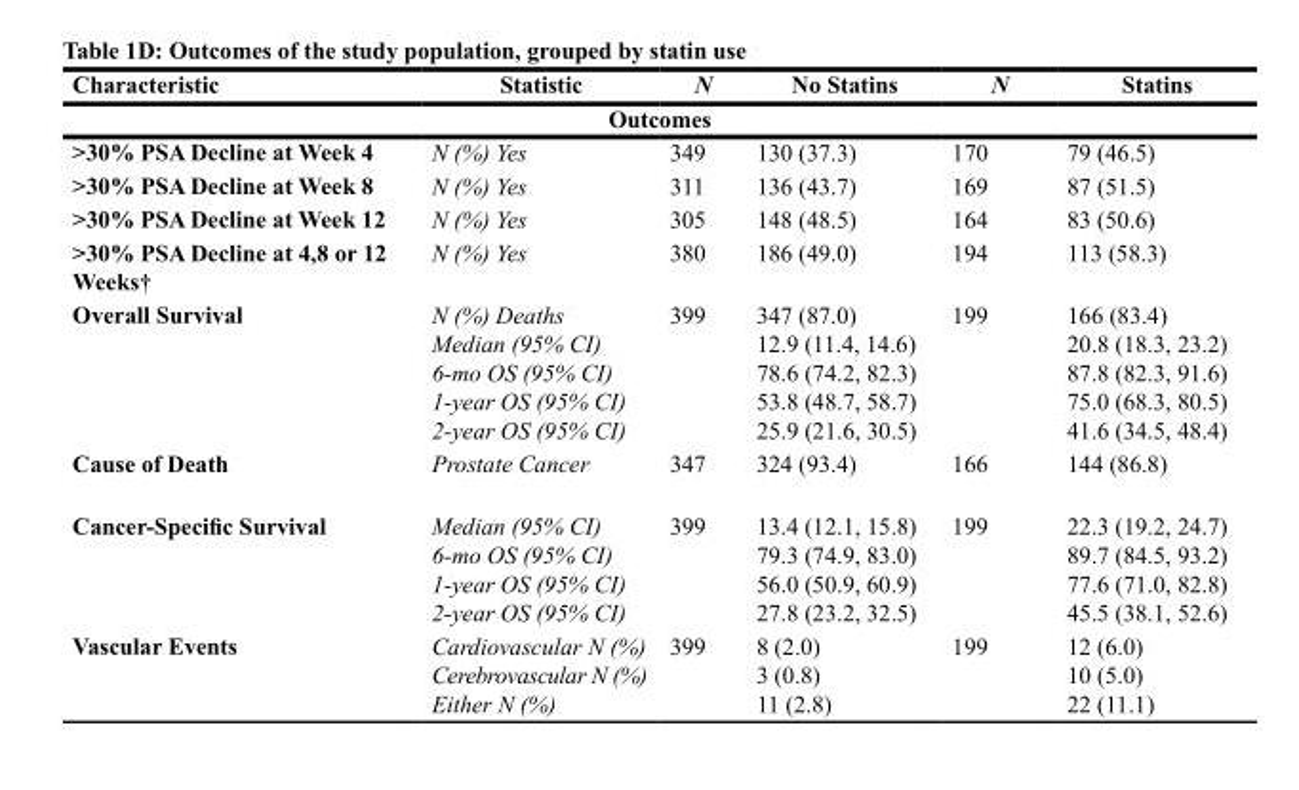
<table><thead><tr><td>Characteristic</td><td>Statistic</td><td>N</td><td>No Statins</td><td>N</td><td>Statins</td></tr><tr><td colspan="6">Outcomes</td></tr></thead><tbody><tr><td>&gt;30% PSA Decline at Week 4</td><td>N (%) Yes</td><td>349</td><td>130 (37.3)</td><td>170</td><td>79 (46.5)</td></tr><tr><td>&gt;30% PSA Decline at Week 8</td><td>N (%) Yes</td><td>311</td><td>136 (43.7)</td><td>169</td><td>87 (51.5)</td></tr><tr><td>&gt;30% PSA Decline at Week 12</td><td>N (%) Yes</td><td>305</td><td>148 (48.5)</td><td>164</td><td>83 (50.6)</td></tr><tr><td>&gt;30% PSA Decline at 4,8 or 12 Weeks†</td><td>N (%) Yes</td><td>380</td><td>186 (49.0)</td><td>194</td><td>113 (58.3)</td></tr><tr><td>Overall Survival</td><td>N (%) Deaths Median (95% CI) 6-mo OS (95% CI) 1-year OS (95% CI) 2-year OS (95% CI)</td><td>399</td><td>347 (87.0) 12.9 (11.4, 14.6) 78.6 (74.2, 82.3) 53.8 (48.7, 58.7) 25.9 (21.6, 30.5)</td><td>199</td><td>166 (83.4) 20.8 (18.3, 23.2) 87.8 (82.3, 91.6) 75.0 (68.3, 80.5) 41.6 (34.5, 48.4)</td></tr><tr><td>Cause of Death</td><td>Prostate Cancer</td><td>347</td><td>324 (93.4)</td><td>166</td><td>144 (86.8)</td></tr><tr><td>Cancer-Specific Survival</td><td>Median (95% CI) 6-mo OS (95% CI) 1-year OS (95% CI) 2-year OS (95% CI)</td><td>399</td><td>13.4 (12.1, 15.8) 79.3 (74.9, 83.0) 56.0 (50.9, 60.9) 27.8 (23.2, 32.5)</td><td>199</td><td>22.3 (19.2, 24.7) 89.7 (84.5, 93.2) 77.6 (71.0, 82.8) 45.5 (38.1, 52.6)</td></tr><tr><td>Vascular Events</td><td>Cardiovascular N (%) Cerebrovascular N (%) Either N (%)</td><td>399</td><td>8 (2.0) 3 (0.8) 11 (2.8)</td><td>199</td><td>12 (6.0) 10 (5.0) 22 (11.1)</td></tr></tbody></table>